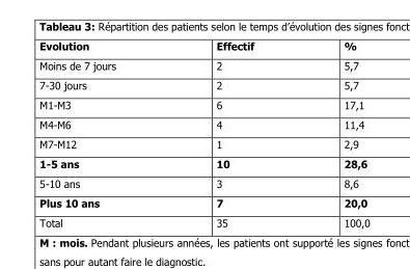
<table><thead><tr><td>Evolution</td><td>Effectif</td><td>%</td></tr></thead><tbody><tr><td>Moins de 7 jours</td><td>2</td><td>5,7</td></tr><tr><td>7-30 jours</td><td>2</td><td>5,7</td></tr><tr><td>M1-M3</td><td>6</td><td>17,1</td></tr><tr><td>M4-M6</td><td>4</td><td>11,4</td></tr><tr><td>M7-M12</td><td>1</td><td>2,9</td></tr><tr><td>1-5 ans</td><td>10</td><td>28,6</td></tr><tr><td>5-10 ans</td><td>3</td><td>8,6</td></tr><tr><td>Plus 10 ans</td><td>7</td><td>20,0</td></tr><tr><td>Total</td><td>35</td><td>100,0</td></tr></tbody></table>